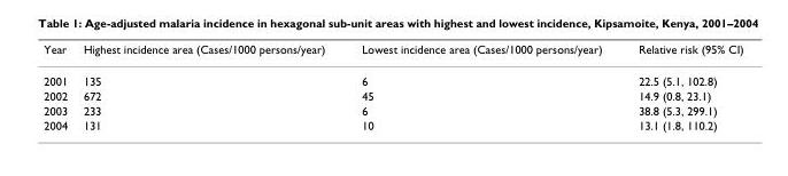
<table><thead><tr><td>Year</td><td>Highest incidence area (Cases/1000 persons/year)</td><td>Lowest incidence area (Cases/1000 persons/year)</td><td>Relative risk (95% CI)</td></tr></thead><tbody><tr><td>2001</td><td>135</td><td>6</td><td>22.5 (5.1, 102.8)</td></tr><tr><td>2002</td><td>672</td><td>45</td><td>14.9 (0.8, 23.1)</td></tr><tr><td>2003</td><td>233</td><td>6</td><td>38.8 (5.3, 299.1)</td></tr><tr><td>2004</td><td>131</td><td>10</td><td>13.1 (1.8, 110.2)</td></tr></tbody></table>